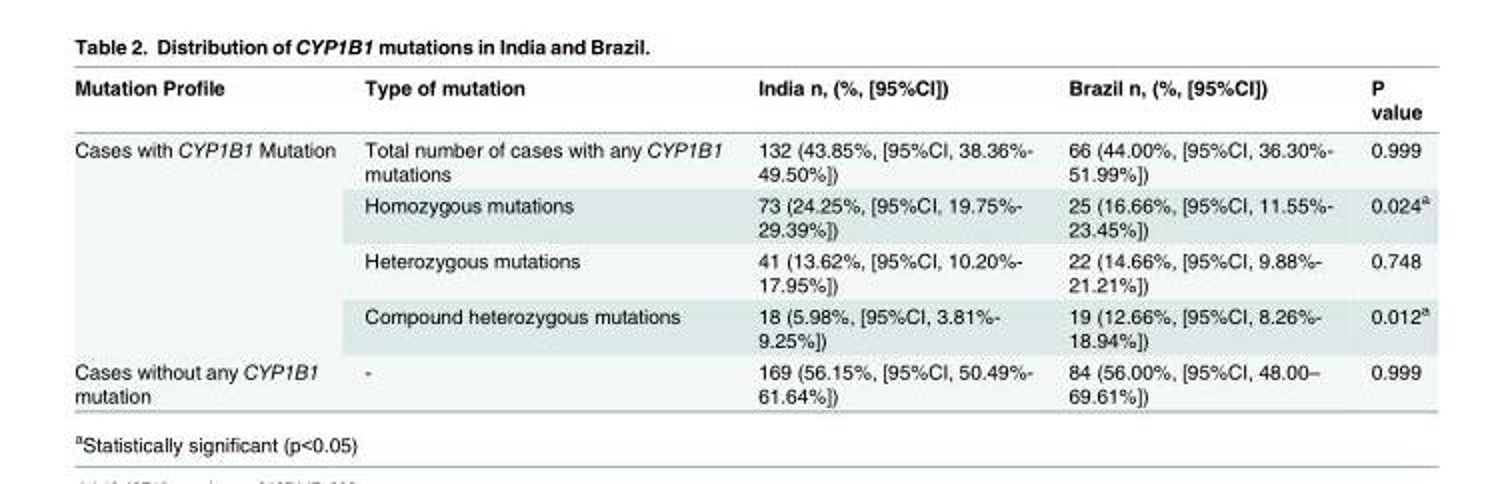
<table><thead><tr><td>Mutation Profile</td><td>Type of mutation</td><td>India n, (%, [95%CI])</td><td>Brazil n, (%, [95%CI])</td><td>P value</td></tr></thead><tbody><tr><td rowspan="4">Cases with CYP1B1 Mutation</td><td>Total number of cases with any CYP1B1 mutations</td><td>132 (43.85%, [95%CI, 38.36%- 49.50%])</td><td>66 (44.00%, [95%CI, 36.30%- 51.99%])</td><td>0.999</td></tr><tr><td>Homozygous mutations</td><td>73 (24.25%, [95%CI, 19.75%- 29.39%])</td><td>25 (16.66%, [95%CI, 11.55%- 23.45%])</td><td>0.024<sup>a</sup></td></tr><tr><td>Heterozygous mutations</td><td>41 (13.62%, [95%CI, 10.20%- 17.95%])</td><td>22 (14.66%, [95%CI, 9.88%- 21.21%])</td><td>0.748</td></tr><tr><td>Compound heterozygous mutations</td><td>18 (5.98%, [95%CI, 3.81%- 9.25%])</td><td>19 (12.66%, [95%CI, 8.26%- 18.94%])</td><td>0.012<sup>a</sup></td></tr><tr><td>Cases without any CYP1B1 mutation</td><td>-</td><td>169 (56.15%, [95%CI, 50.49%- 61.64%])</td><td>84 (56.00%, [95%CI, 48.00– 69.61%])</td><td>0.999</td></tr></tbody></table>